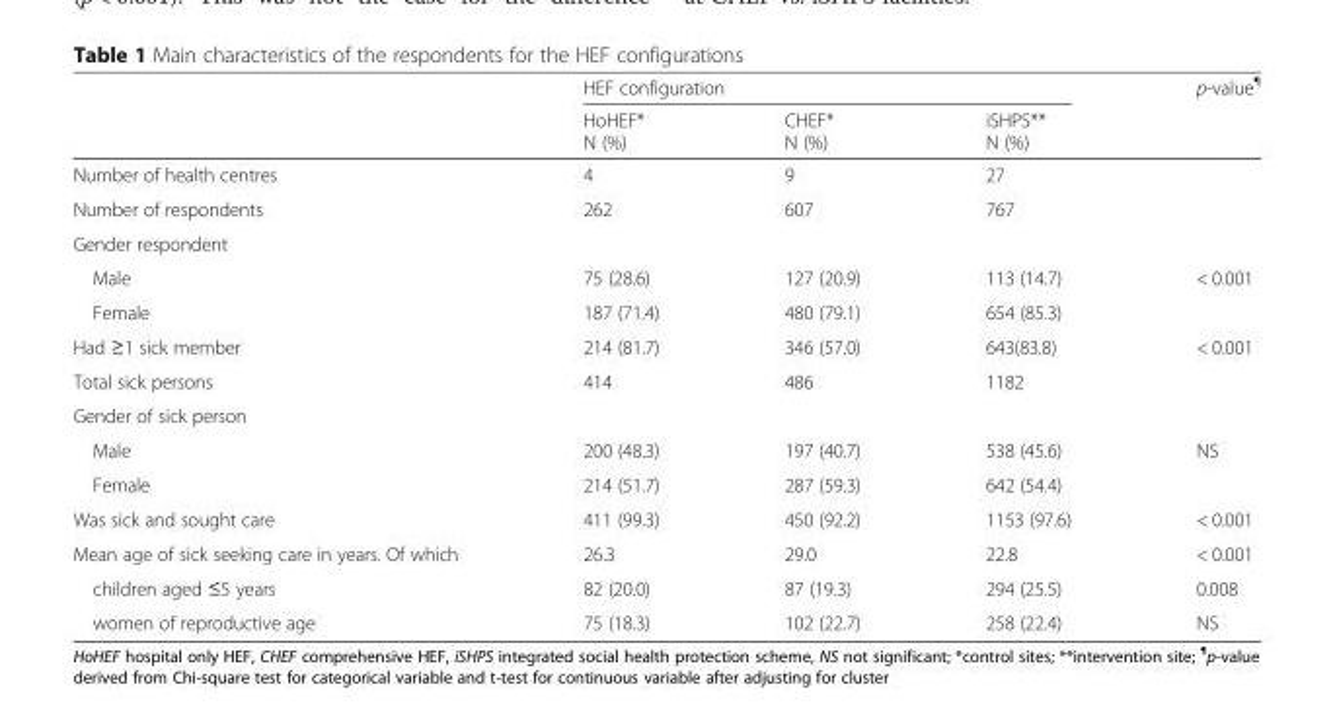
<table><thead><tr><td rowspan="2"></td><td colspan="3">HEF configuration</td><td rowspan="2">p-value<sup>¶</sup></td></tr><tr><td>HoHEF* N (%)</td><td>CHEF* N (%)</td><td>iSHPS** N (%)</td></tr></thead><tbody><tr><td>Number of health centres</td><td>4</td><td>9</td><td>27</td><td></td></tr><tr><td>Number of respondents</td><td>262</td><td>607</td><td>767</td><td></td></tr><tr><td colspan="5">Gender respondent</td></tr><tr><td>Male</td><td>75 (28.6)</td><td>127 (20.9)</td><td>113 (14.7)</td><td>&lt; 0.001</td></tr><tr><td>Female</td><td>187 (71.4)</td><td>480 (79.1)</td><td>654 (85.3)</td><td></td></tr><tr><td>Had ≥1 sick member</td><td>214 (81.7)</td><td>346 (57.0)</td><td>643(83.8)</td><td>&lt; 0.001</td></tr><tr><td>Total sick persons</td><td>414</td><td>486</td><td>1182</td><td></td></tr><tr><td colspan="5">Gender of sick person</td></tr><tr><td>Male</td><td>200 (48.3)</td><td>197 (40.7)</td><td>538 (45.6)</td><td>NS</td></tr><tr><td>Female</td><td>214 (51.7)</td><td>287 (59.3)</td><td>642 (54.4)</td><td></td></tr><tr><td>Was sick and sought care</td><td>411 (99.3)</td><td>450 (92.2)</td><td>1153 (97.6)</td><td>&lt; 0.001</td></tr><tr><td>Mean age of sick seeking care in years. Of which</td><td>26.3</td><td>29.0</td><td>22.8</td><td>&lt; 0.001</td></tr><tr><td>children aged ≤5 years</td><td>82 (20.0)</td><td>87 (19.3)</td><td>294 (25.5)</td><td>0.008</td></tr><tr><td>women of reproductive age</td><td>75 (18.3)</td><td>102 (22.7)</td><td>258 (22.4)</td><td>NS</td></tr></tbody></table>